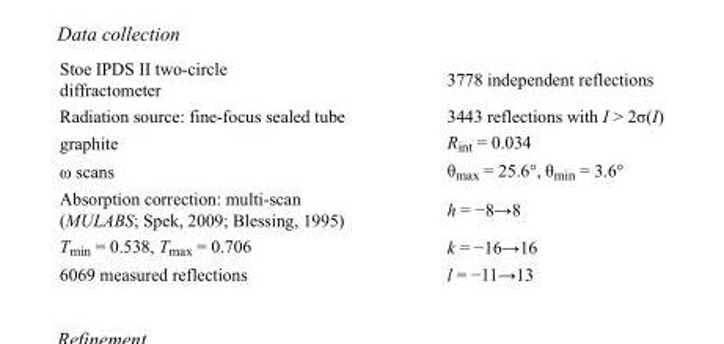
<table><tbody><tr><td>Stoe IPDS II two-circle diffractometer</td><td>3778 independent reflections</td></tr><tr><td>Radiation source: fine-focus sealed tube</td><td>3443 reflections with I &gt; 2σ(I)</td></tr><tr><td>graphite</td><td>R<sub>int</sub> = 0.034</td></tr><tr><td>ω scans</td><td>θ<sub>max</sub> = 25.6°, θ<sub>min</sub> = 3.6°</td></tr><tr><td>Absorption correction: multi-scan (MULABS; Spek, 2009; Blessing, 1995)</td><td>h = −8→8</td></tr><tr><td>T<sub>min</sub> = 0.538, T<sub>max</sub> = 0.706</td><td>k = −16→16</td></tr><tr><td>6069 measured reflections</td><td>l = −11→13</td></tr></tbody></table>